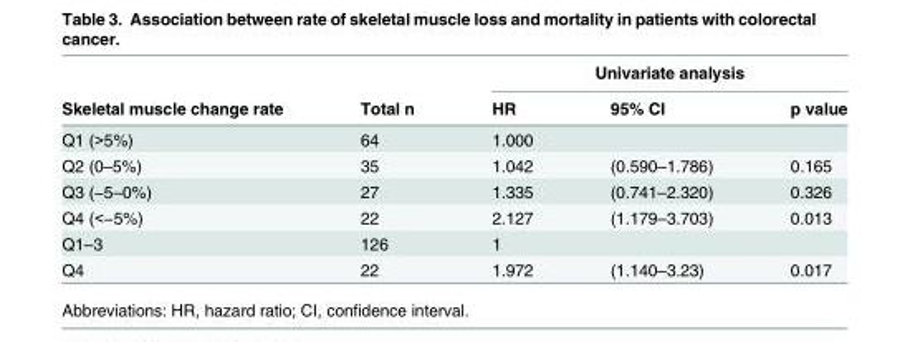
<table><thead><tr><td rowspan="2">Skeletal muscle change rate</td><td rowspan="2">Total n</td><td colspan="3">Univariate analysis</td></tr><tr><td>HR</td><td>95% CI</td><td>p value</td></tr></thead><tbody><tr><td>Q1 (&gt;5%)</td><td>64</td><td>1.000</td><td></td><td></td></tr><tr><td>Q2 (0–5%)</td><td>35</td><td>1.042</td><td>(0.590–1.786)</td><td>0.165</td></tr><tr><td>Q3 (−5–0%)</td><td>27</td><td>1.335</td><td>(0.741–2.320)</td><td>0.326</td></tr><tr><td>Q4 (&lt;−5%)</td><td>22</td><td>2.127</td><td>(1.179–3.703)</td><td>0.013</td></tr><tr><td>Q1–3</td><td>126</td><td>1</td><td></td><td></td></tr><tr><td>Q4</td><td>22</td><td>1.972</td><td>(1.140–3.23)</td><td>0.017</td></tr></tbody></table>